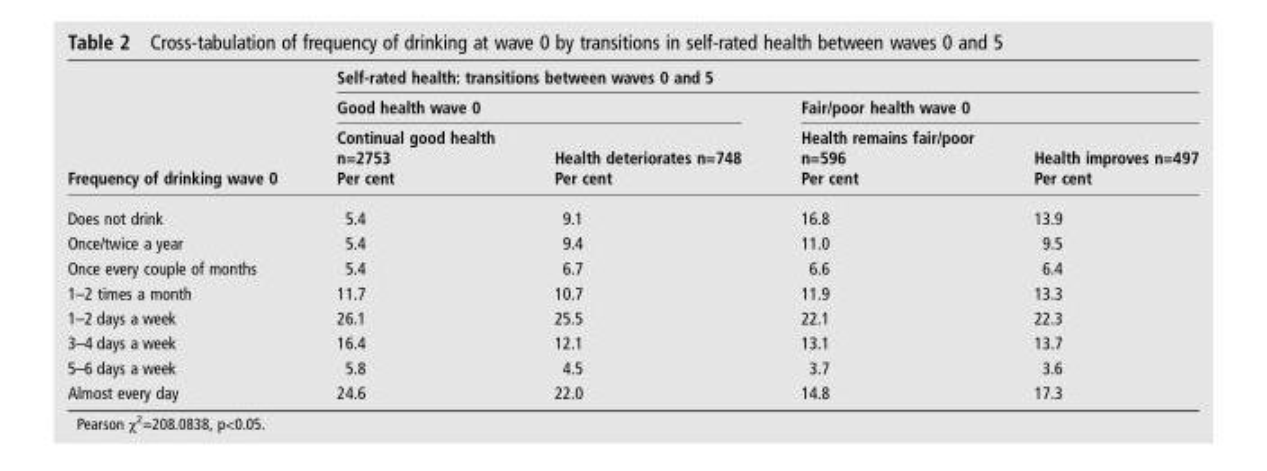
<table><thead><tr><td rowspan="3">Frequency of drinking wave 0</td><td colspan="4">Self-rated health: transitions between waves 0 and 5</td></tr><tr><td colspan="2">Good health wave 0</td><td colspan="2">Fair/poor health wave 0</td></tr><tr><td>Continual good health n=2753 Per cent</td><td>Health deteriorates n=748 Per cent</td><td>Health remains fair/poor n=596 Per cent</td><td>Health improves n=497 Per cent</td></tr></thead><tbody><tr><td>Does not drink</td><td>5.4</td><td>9.1</td><td>16.8</td><td>13.9</td></tr><tr><td>Once/twice a year</td><td>5.4</td><td>9.4</td><td>11.0</td><td>9.5</td></tr><tr><td>Once every couple of months</td><td>5.4</td><td>6.7</td><td>6.6</td><td>6.4</td></tr><tr><td>1–2 times a month</td><td>11.7</td><td>10.7</td><td>11.9</td><td>13.3</td></tr><tr><td>1–2 days a week</td><td>26.1</td><td>25.5</td><td>22.1</td><td>22.3</td></tr><tr><td>3–4 days a week</td><td>16.4</td><td>12.1</td><td>13.1</td><td>13.7</td></tr><tr><td>5–6 days a week</td><td>5.8</td><td>4.5</td><td>3.7</td><td>3.6</td></tr><tr><td>Almost every day</td><td>24.6</td><td>22.0</td><td>14.8</td><td>17.3</td></tr></tbody></table>